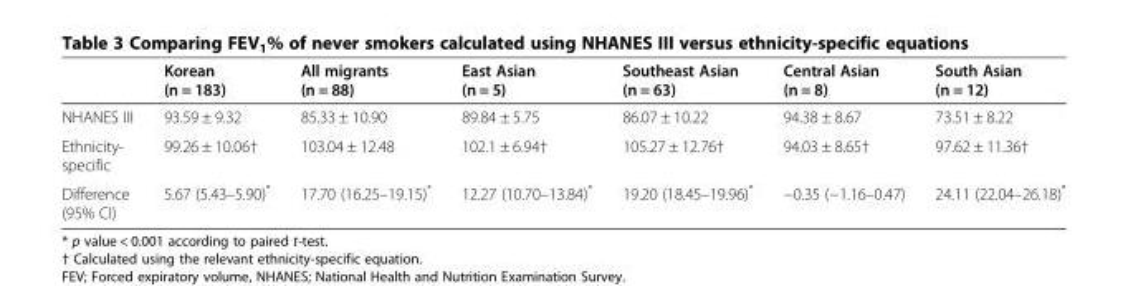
<table><thead><tr><td></td><td>Korean (n = 183)</td><td>All migrants (n = 88)</td><td>East Asian (n = 5)</td><td>Southeast Asian (n = 63)</td><td>Central Asian (n = 8)</td><td>South Asian (n = 12)</td></tr></thead><tbody><tr><td>NHANES III</td><td>93.59 ± 9.32</td><td>85.33 ± 10.90</td><td>89.84 ± 5.75</td><td>86.07 ± 10.22</td><td>94.38 ± 8.67</td><td>73.51 ± 8.22</td></tr><tr><td>Ethnicity- specific</td><td>99.26 ± 10.06†</td><td>103.04 ± 12.48</td><td>102.1 ± 6.94†</td><td>105.27 ± 12.76†</td><td>94.03 ± 8.65†</td><td>97.62 ± 11.36†</td></tr><tr><td>Difference (95% CI)</td><td>5.67 (5.43–5.90)*</td><td>17.70 (16.25–19.15)*</td><td>12.27 (10.70–13.84)*</td><td>19.20 (18.45–19.96)*</td><td>−0.35 (−1.16–0.47)</td><td>24.11 (22.04–26.18)*</td></tr></tbody></table>